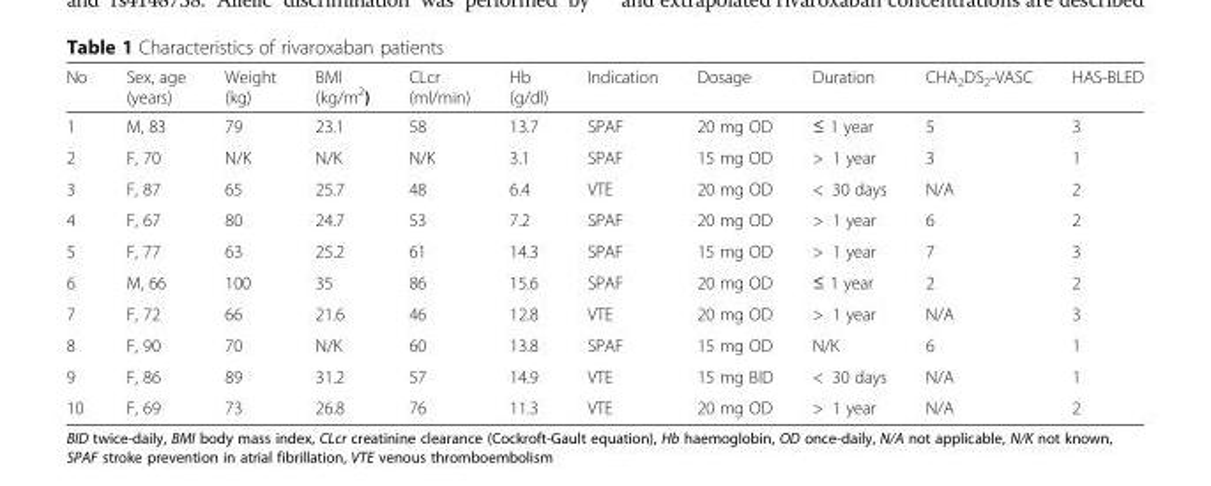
<table><thead><tr><td>No</td><td>Sex, age (years)</td><td>Weight (kg)</td><td>BMI (kg/m<sup>2</sup>)</td><td>CLcr (ml/min)</td><td>Hb (g/dl)</td><td>Indication</td><td>Dosage</td><td>Duration</td><td>CHA<sub>2</sub>DS<sub>2</sub>-VASC</td><td>HAS-BLED</td></tr></thead><tbody><tr><td>1</td><td>M, 83</td><td>79</td><td>23.1</td><td>58</td><td>13.7</td><td>SPAF</td><td>20 mg OD</td><td>≤ 1 year</td><td>5</td><td>3</td></tr><tr><td>2</td><td>F, 70</td><td>N/K</td><td>N/K</td><td>N/K</td><td>3.1</td><td>SPAF</td><td>15 mg OD</td><td>&gt; 1 year</td><td>3</td><td>1</td></tr><tr><td>3</td><td>F, 87</td><td>65</td><td>25.7</td><td>48</td><td>6.4</td><td>VTE</td><td>20 mg OD</td><td>&lt; 30 days</td><td>N/A</td><td>2</td></tr><tr><td>4</td><td>F, 67</td><td>80</td><td>24.7</td><td>53</td><td>7.2</td><td>SPAF</td><td>20 mg OD</td><td>&gt; 1 year</td><td>6</td><td>2</td></tr><tr><td>5</td><td>F, 77</td><td>63</td><td>25.2</td><td>61</td><td>14.3</td><td>SPAF</td><td>15 mg OD</td><td>&gt; 1 year</td><td>7</td><td>3</td></tr><tr><td>6</td><td>M, 66</td><td>100</td><td>35</td><td>86</td><td>15.6</td><td>SPAF</td><td>20 mg OD</td><td>≤ 1 year</td><td>2</td><td>2</td></tr><tr><td>7</td><td>F, 72</td><td>66</td><td>21.6</td><td>46</td><td>12.8</td><td>VTE</td><td>20 mg OD</td><td>&gt; 1 year</td><td>N/A</td><td>3</td></tr><tr><td>8</td><td>F, 90</td><td>70</td><td>N/K</td><td>60</td><td>13.8</td><td>SPAF</td><td>15 mg OD</td><td>N/K</td><td>6</td><td>1</td></tr><tr><td>9</td><td>F, 86</td><td>89</td><td>31.2</td><td>57</td><td>14.9</td><td>VTE</td><td>15 mg BID</td><td>&lt; 30 days</td><td>N/A</td><td>1</td></tr><tr><td>10</td><td>F, 69</td><td>73</td><td>26.8</td><td>76</td><td>11.3</td><td>VTE</td><td>20 mg OD</td><td>&gt; 1 year</td><td>N/A</td><td>2</td></tr></tbody></table>